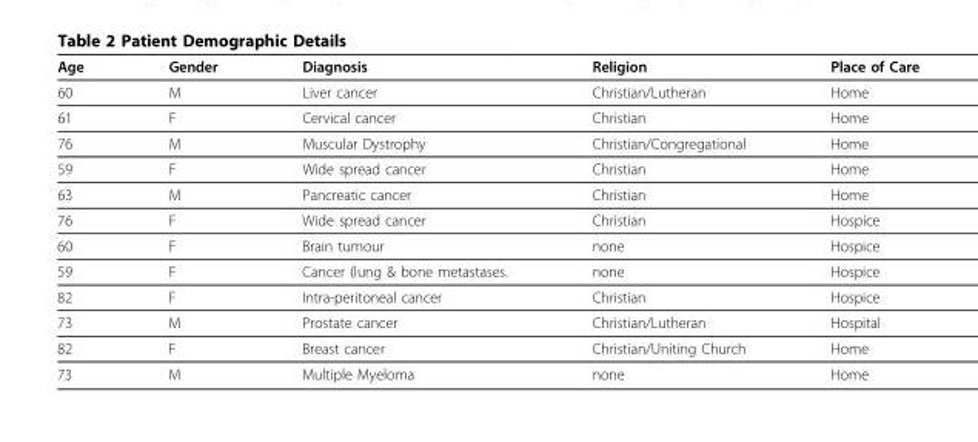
<table><thead><tr><td>Age</td><td>Gender</td><td>Diagnosis</td><td>Religion</td><td>Place of Care</td></tr></thead><tbody><tr><td>60</td><td>M</td><td>Liver cancer</td><td>Christian/Lutheran</td><td>Home</td></tr><tr><td>61</td><td>F</td><td>Cervical cancer</td><td>Christian</td><td>Home</td></tr><tr><td>76</td><td>M</td><td>Muscular Dystrophy</td><td>Christian/Congregational</td><td>Home</td></tr><tr><td>59</td><td>F</td><td>Wide spread cancer</td><td>Christian</td><td>Home</td></tr><tr><td>63</td><td>M</td><td>Pancreatic cancer</td><td>Christian</td><td>Home</td></tr><tr><td>76</td><td>F</td><td>Wide spread cancer</td><td>Christian</td><td>Hospice</td></tr><tr><td>60</td><td>F</td><td>Brain tumour</td><td>none</td><td>Hospice</td></tr><tr><td>59</td><td>F</td><td>Cancer (lung &amp; bone metastases.</td><td>none</td><td>Hospice</td></tr><tr><td>82</td><td>F</td><td>Intra-peritoneal cancer</td><td>Christian</td><td>Hospice</td></tr><tr><td>73</td><td>M</td><td>Prostate cancer</td><td>Christian/Lutheran</td><td>Hospital</td></tr><tr><td>82</td><td>F</td><td>Breast cancer</td><td>Christian/Uniting Church</td><td>Home</td></tr><tr><td>73</td><td>M</td><td>Multiple Myeloma</td><td>none</td><td>Home</td></tr></tbody></table>